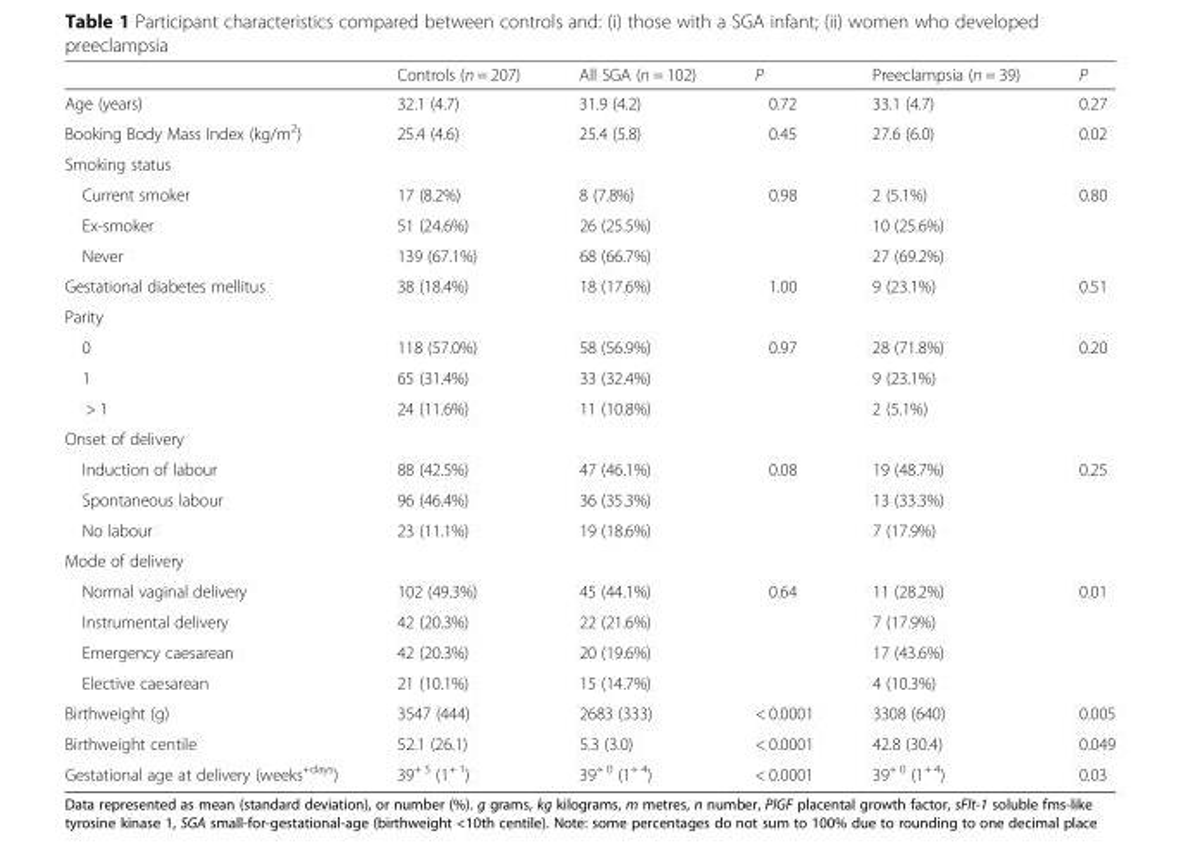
<table><thead><tr><td></td><td>Controls (n = 207)</td><td>All SGA (n = 102)</td><td>P</td><td>Preeclampsia (n = 39)</td><td>P</td></tr></thead><tbody><tr><td>Age (years)</td><td>32.1 (4.7)</td><td>31.9 (4.2)</td><td>0.72</td><td>33.1 (4.7)</td><td>0.27</td></tr><tr><td>Booking Body Mass Index (kg/m<sup>2</sup>)</td><td>25.4 (4.6)</td><td>25.4 (5.8)</td><td>0.45</td><td>27.6 (6.0)</td><td>0.02</td></tr><tr><td colspan="6">Smoking status</td></tr><tr><td>Current smoker</td><td>17 (8.2%)</td><td>8 (7.8%)</td><td>0.98</td><td>2 (5.1%)</td><td>0.80</td></tr><tr><td>Ex-smoker</td><td>51 (24.6%)</td><td>26 (25.5%)</td><td></td><td>10 (25.6%)</td><td></td></tr><tr><td>Never</td><td>139 (67.1%)</td><td>68 (66.7%)</td><td></td><td>27 (69.2%)</td><td></td></tr><tr><td>Gestational diabetes mellitus</td><td>38 (18.4%)</td><td>18 (17.6%)</td><td>1.00</td><td>9 (23.1%)</td><td>0.51</td></tr><tr><td colspan="6">Parity</td></tr><tr><td>0</td><td>118 (57.0%)</td><td>58 (56.9%)</td><td>0.97</td><td>28 (71.8%)</td><td>0.20</td></tr><tr><td>1</td><td>65 (31.4%)</td><td>33 (32.4%)</td><td></td><td>9 (23.1%)</td><td></td></tr><tr><td>&gt; 1</td><td>24 (11.6%)</td><td>11 (10.8%)</td><td></td><td>2 (5.1%)</td><td></td></tr><tr><td colspan="6">Onset of delivery</td></tr><tr><td>Induction of labour</td><td>88 (42.5%)</td><td>47 (46.1%)</td><td>0.08</td><td>19 (48.7%)</td><td>0.25</td></tr><tr><td>Spontaneous labour</td><td>96 (46.4%)</td><td>36 (35.3%)</td><td></td><td>13 (33.3%)</td><td></td></tr><tr><td>No labour</td><td>23 (11.1%)</td><td>19 (18.6%)</td><td></td><td>7 (17.9%)</td><td></td></tr><tr><td colspan="6">Mode of delivery</td></tr><tr><td>Normal vaginal delivery</td><td>102 (49.3%)</td><td>45 (44.1%)</td><td>0.64</td><td>11 (28.2%)</td><td>0.01</td></tr><tr><td>Instrumental delivery</td><td>42 (20.3%)</td><td>22 (21.6%)</td><td></td><td>7 (17.9%)</td><td></td></tr><tr><td>Emergency caesarean</td><td>42 (20.3%)</td><td>20 (19.6%)</td><td></td><td>17 (43.6%)</td><td></td></tr><tr><td>Elective caesarean</td><td>21 (10.1%)</td><td>15 (14.7%)</td><td></td><td>4 (10.3%)</td><td></td></tr><tr><td>Birthweight (g)</td><td>3547 (444)</td><td>2683 (333)</td><td>&lt; 0.0001</td><td>3308 (640)</td><td>0.005</td></tr><tr><td>Birthweight centile</td><td>52.1 (26.1)</td><td>5.3 (3.0)</td><td>&lt; 0.0001</td><td>42.8 (30.4)</td><td>0.049</td></tr><tr><td>Gestational age at delivery (weeks<sup>+days</sup>)</td><td>39<sup>+ 5</sup> (1<sup>+ 1</sup>)</td><td>39<sup>+ 0</sup> (1<sup>+ 4</sup>)</td><td>&lt; 0.0001</td><td>39<sup>+ 0</sup> (1<sup>+ 4</sup>)</td><td>0.03</td></tr></tbody></table>